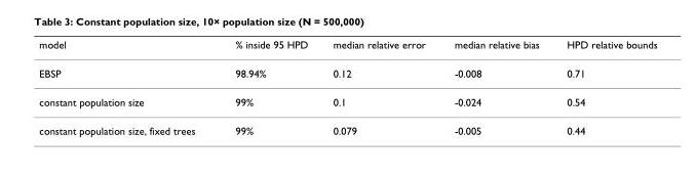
<table><thead><tr><td>model</td><td>% inside 95 HPD</td><td>median relative error</td><td>median relative bias</td><td>HPD relative bounds</td></tr></thead><tbody><tr><td>EBSP</td><td>98.94%</td><td>0.12</td><td>-0.008</td><td>0.71</td></tr><tr><td>constant population size</td><td>99%</td><td>0.1</td><td>-0.024</td><td>0.54</td></tr><tr><td>constant population size, fixed trees</td><td>99%</td><td>0.079</td><td>-0.005</td><td>0.44</td></tr></tbody></table>